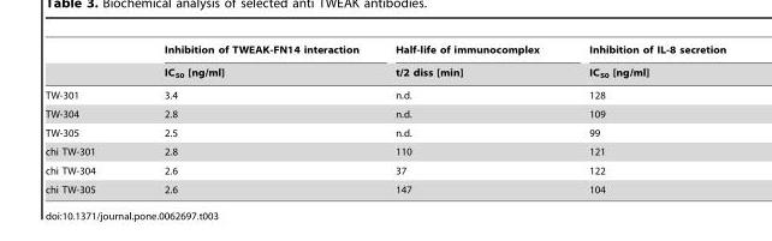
<table><thead><tr><td rowspan="2"></td><td rowspan="2">Inhibition of TWEAK-FN14 interaction IC<sub>50</sub> [ng/ml]</td><td rowspan="2">Half-life of immunocomplex t/2 diss [min]</td><td rowspan="2">Inhibition of IL-8 secretion IC<sub>50</sub> [ng/ml]</td></tr><tr></tr></thead><tbody><tr><td>TW-301</td><td>3.4</td><td>n.d.</td><td>128</td></tr><tr><td>TW-304</td><td>2.8</td><td>n.d.</td><td>109</td></tr><tr><td>TW-305</td><td>2.5</td><td>n.d.</td><td>99</td></tr><tr><td>chi TW-301</td><td>2.8</td><td>110</td><td>121</td></tr><tr><td>chi TW-304</td><td>2.6</td><td>37</td><td>122</td></tr><tr><td>chi TW-305</td><td>2.6</td><td>147</td><td>104</td></tr></tbody></table>